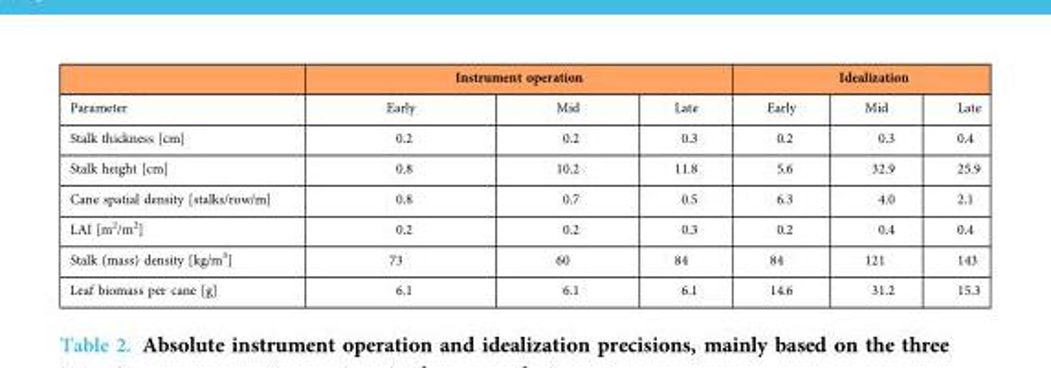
<table><thead><tr><td rowspan="2">Parameter</td><td colspan="3">Instrument operation</td><td colspan="3">Idealization</td></tr><tr><td>Early</td><td>Mid</td><td>Late</td><td>Early</td><td>Mid</td><td>Late</td></tr></thead><tbody><tr><td>Stalk thickness [cm]</td><td>0.2</td><td>0.2</td><td>0.3</td><td>0.2</td><td>0.3</td><td>0.4</td></tr><tr><td>Stalk height [cm]</td><td>0.8</td><td>10.2</td><td>11.8</td><td>5.6</td><td>32.9</td><td>25.9</td></tr><tr><td>Cane spatial density [stalks/row/m]</td><td>0.8</td><td>0.7</td><td>0.5</td><td>6.3</td><td>4.0</td><td>2.1</td></tr><tr><td>LAI [m<sup>2</sup>/m<sup>2</sup>]</td><td>0.2</td><td>0.2</td><td>0.3</td><td>0.2</td><td>0.4</td><td>0.4</td></tr><tr><td>Stalk (mass) density [kg/m<sup>3</sup>]</td><td>73</td><td>60</td><td>84</td><td>84</td><td>121</td><td>143</td></tr><tr><td>Leaf biomass per cane [g]</td><td>6.1</td><td>6.1</td><td>6.1</td><td>14.6</td><td>31.2</td><td>15.3</td></tr></tbody></table>